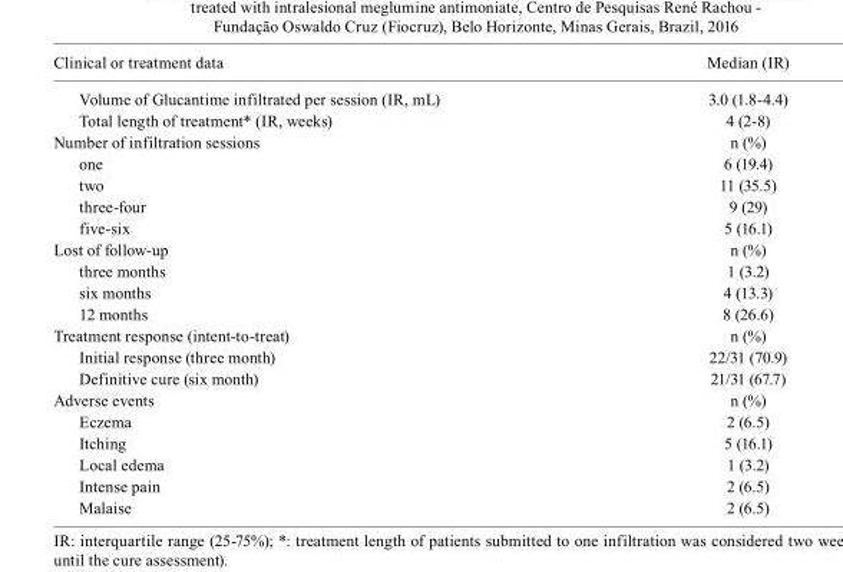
<table><thead><tr><td>Clinical or treatment data</td><td>Median (IR)</td></tr></thead><tbody><tr><td>Volume of Glucantime infiltrated per session (IR, mL)</td><td>3.0 (1.8-4.4)</td></tr><tr><td>Total length of treatment* (IR, weeks)</td><td>4 (2-8)</td></tr><tr><td>Number of infiltration sessions</td><td>n (%)</td></tr><tr><td>one</td><td>6 (19.4)</td></tr><tr><td>two</td><td>11 (35.5)</td></tr><tr><td>three-four</td><td>9 (29)</td></tr><tr><td>five-six</td><td>5 (16.1)</td></tr><tr><td>Lost of follow-up</td><td>n (%)</td></tr><tr><td>three months</td><td>1 (3.2)</td></tr><tr><td>six months</td><td>4 (13.3)</td></tr><tr><td>12 months</td><td>8 (26.6)</td></tr><tr><td>Treatment response (intent-to-treat)</td><td>n (%)</td></tr><tr><td>Initial response (three month)</td><td>22/31 (70.9)</td></tr><tr><td>Definitive cure (six month)</td><td>21/31 (67.7)</td></tr><tr><td>Adverse events</td><td>n (%)</td></tr><tr><td>Eczema</td><td>2 (6.5)</td></tr><tr><td>Itching</td><td>5 (16.1)</td></tr><tr><td>Local edema</td><td>1 (3.2)</td></tr><tr><td>Intense pain</td><td>2 (6.5)</td></tr><tr><td>Malaise</td><td>2 (6.5)</td></tr></tbody></table>